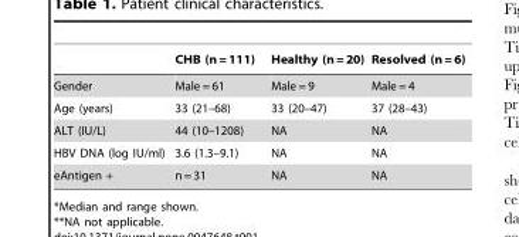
<table><thead><tr><td></td><td>CHB (n = 111)</td><td>Healthy (n = 20)</td><td>Resolved (n = 6)</td></tr></thead><tbody><tr><td>Gender</td><td>Male = 61</td><td>Male = 9</td><td>Male = 4</td></tr><tr><td>Age (years)</td><td>33 (21–68)</td><td>33 (20–47)</td><td>37 (28–43)</td></tr><tr><td>ALT (IU/L)</td><td>44 (10–1208)</td><td>NA</td><td>NA</td></tr><tr><td>HBV DNA (log IU/ml)</td><td>3.6 (1.3–9.1)</td><td>NA</td><td>NA</td></tr><tr><td>eAntigen +</td><td>n = 31</td><td>NA</td><td>NA</td></tr></tbody></table>